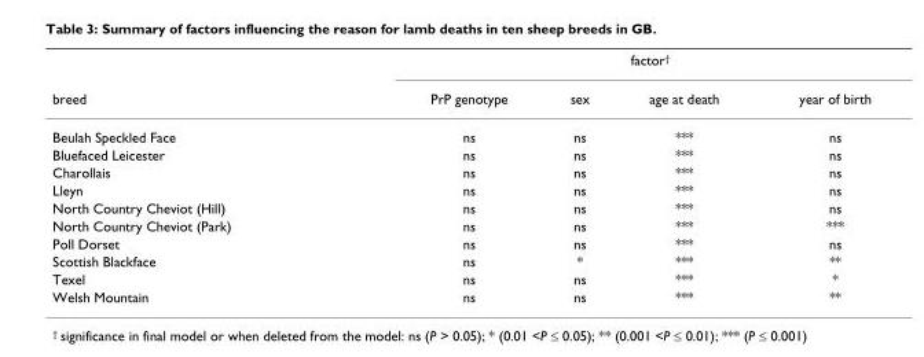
<table><thead><tr><td rowspan="2">breed</td><td colspan="4">factor<sup>†</sup></td></tr><tr><td>PrP genotype</td><td>sex</td><td>age at death</td><td>year of birth</td></tr></thead><tbody><tr><td>Beulah Speckled Face</td><td>ns</td><td>ns</td><td>***</td><td>ns</td></tr><tr><td>Bluefaced Leicester</td><td>ns</td><td>ns</td><td>***</td><td>ns</td></tr><tr><td>Charollais</td><td>ns</td><td>ns</td><td>***</td><td>ns</td></tr><tr><td>Lleyn</td><td>ns</td><td>ns</td><td>***</td><td>ns</td></tr><tr><td>North Country Cheviot (Hill)</td><td>ns</td><td>ns</td><td>***</td><td>ns</td></tr><tr><td>North Country Cheviot (Park)</td><td>ns</td><td>ns</td><td>***</td><td>***</td></tr><tr><td>Poll Dorset</td><td>ns</td><td>ns</td><td>***</td><td>ns</td></tr><tr><td>Scottish Blackface</td><td>ns</td><td>*</td><td>***</td><td>**</td></tr><tr><td>Texel</td><td>ns</td><td>ns</td><td>***</td><td>*</td></tr><tr><td>Welsh Mountain</td><td>ns</td><td>ns</td><td>***</td><td>**</td></tr></tbody></table>